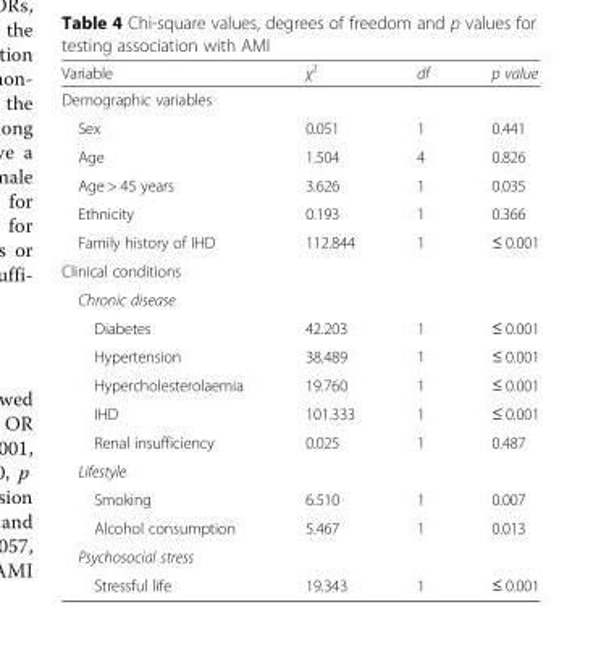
<table><thead><tr><td>Variable</td><td>χ<sup>2</sup></td><td>df</td><td>p value</td></tr></thead><tbody><tr><td colspan="4">Demographic variables</td></tr><tr><td>Sex</td><td>0.051</td><td>1</td><td>0.441</td></tr><tr><td>Age</td><td>1.504</td><td>4</td><td>0.826</td></tr><tr><td>Age &gt; 45 years</td><td>3.626</td><td>1</td><td>0.035</td></tr><tr><td>Ethnicity</td><td>0.193</td><td>1</td><td>0.366</td></tr><tr><td>Family history of IHD</td><td>112.844</td><td>1</td><td>≤ 0.001</td></tr><tr><td colspan="4">Clinical conditions</td></tr><tr><td colspan="4">Chronic disease</td></tr><tr><td>Diabetes</td><td>42.203</td><td>1</td><td>≤ 0.001</td></tr><tr><td>Hypertension</td><td>38.489</td><td>1</td><td>≤ 0.001</td></tr><tr><td>Hypercholesterolaemia</td><td>19.760</td><td>1</td><td>≤ 0.001</td></tr><tr><td>IHD</td><td>101.333</td><td>1</td><td>≤ 0.001</td></tr><tr><td>Renal insufficiency</td><td>0.025</td><td>1</td><td>0.487</td></tr><tr><td colspan="4">Lifestyle</td></tr><tr><td>Smoking</td><td>6.510</td><td>1</td><td>0.007</td></tr><tr><td>Alcohol consumption</td><td>5.467</td><td>1</td><td>0.013</td></tr><tr><td colspan="4">Psychosocial stress</td></tr><tr><td>Stressful life</td><td>19.343</td><td>1</td><td>≤ 0.001</td></tr></tbody></table>